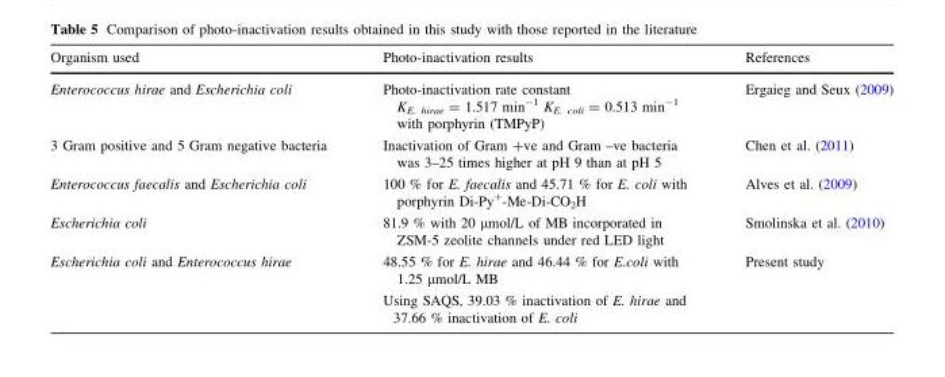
<table><thead><tr><td>Organism used</td><td>Photo-inactivation results</td><td>References</td></tr></thead><tbody><tr><td>Enterococcus hirae and Escherichia coli</td><td>Photo-inactivation rate constant K<sub>E. hirae</sub> = 1.517 min<sup>-1</sup> K<sub>E. coli</sub> = 0.513 min<sup>-1</sup> with porphyrin (TMPyP)</td><td>Ergaieg and Seux (2009)</td></tr><tr><td>3 Gram positive and 5 Gram negative bacteria</td><td>Inactivation of Gram +ve and Gram –ve bacteria was 3–25 times higher at pH 9 than at pH 5</td><td>Chen et al. (2011)</td></tr><tr><td>Enterococcus faecalis and Escherichia coli</td><td>100 % for E. faecalis and 45.71 % for E. coli with porphyrin Di-Py<sup>+</sup>-Me-Di-CO<sub>2</sub>H</td><td>Alves et al. (2009)</td></tr><tr><td>Escherichia coli</td><td>81.9 % with 20 μmol/L of MB incorporated in ZSM-5 zeolite channels under red LED light</td><td>Smolinska et al. (2010)</td></tr><tr><td>Escherichia coli and Enterococcus hirae</td><td>48.55 % for E. hirae and 46.44 % for E.coli with 1.25 μmol/L MB Using SAQS, 39.03 % inactivation of E. hirae and 37.66 % inactivation of E. coli</td><td>Present study</td></tr></tbody></table>